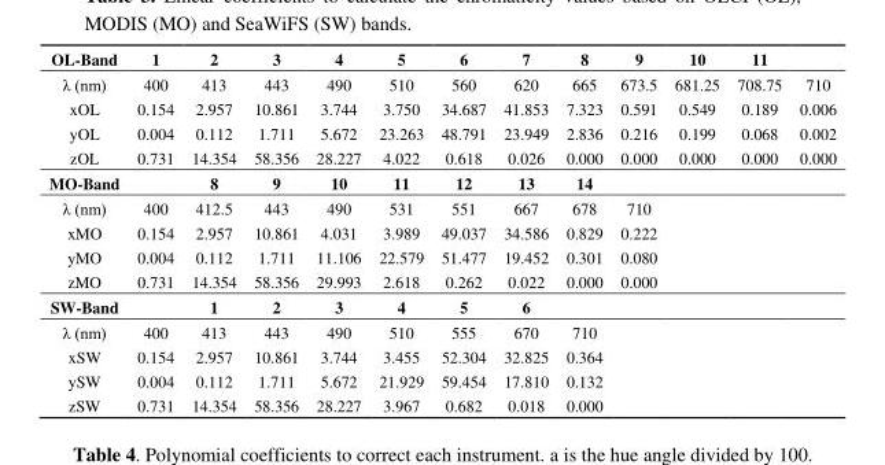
<table><tbody><tr><td>OL-Band</td><td>1</td><td>2</td><td>3</td><td>4</td><td>5</td><td>6</td><td>7</td><td>8</td><td>9</td><td>10</td><td>11</td><td></td></tr><tr><td>λ (nm)</td><td>400</td><td>413</td><td>443</td><td>490</td><td>510</td><td>560</td><td>620</td><td>665</td><td>673.5</td><td>681.25</td><td>708.75</td><td>710</td></tr><tr><td>xOL</td><td>0.154</td><td>2.957</td><td>10.861</td><td>3.744</td><td>3.750</td><td>34.687</td><td>41.853</td><td>7.323</td><td>0.591</td><td>0.549</td><td>0.189</td><td>0.006</td></tr><tr><td>yOL</td><td>0.004</td><td>0.112</td><td>1.711</td><td>5.672</td><td>23.263</td><td>48.791</td><td>23.949</td><td>2.836</td><td>0.216</td><td>0.199</td><td>0.068</td><td>0.002</td></tr><tr><td>zOL</td><td>0.731</td><td>14.354</td><td>58.356</td><td>28.227</td><td>4.022</td><td>0.618</td><td>0.026</td><td>0.000</td><td>0.000</td><td>0.000</td><td>0.000</td><td>0.000</td></tr><tr><td>MO-Band</td><td></td><td>8</td><td>9</td><td>10</td><td>11</td><td>12</td><td>13</td><td>14</td><td></td><td></td><td></td><td></td></tr><tr><td>λ (nm)</td><td>400</td><td>412.5</td><td>443</td><td>490</td><td>531</td><td>551</td><td>667</td><td>678</td><td>710</td><td></td><td></td><td></td></tr><tr><td>xMO</td><td>0.154</td><td>2.957</td><td>10.861</td><td>4.031</td><td>3.989</td><td>49.037</td><td>34.586</td><td>0.829</td><td>0.222</td><td></td><td></td><td></td></tr><tr><td>yMO</td><td>0.004</td><td>0.112</td><td>1.711</td><td>11.106</td><td>22.579</td><td>51.477</td><td>19.452</td><td>0.301</td><td>0.080</td><td></td><td></td><td></td></tr><tr><td>zMO</td><td>0.731</td><td>14.354</td><td>58.356</td><td>29.993</td><td>2.618</td><td>0.262</td><td>0.022</td><td>0.000</td><td>0.000</td><td></td><td></td><td></td></tr><tr><td>SW-Band</td><td></td><td>1</td><td>2</td><td>3</td><td>4</td><td>5</td><td>6</td><td></td><td></td><td></td><td></td><td></td></tr><tr><td>λ (nm)</td><td>400</td><td>413</td><td>443</td><td>490</td><td>510</td><td>555</td><td>670</td><td>710</td><td></td><td></td><td></td><td></td></tr><tr><td>xSW</td><td>0.154</td><td>2.957</td><td>10.861</td><td>3.744</td><td>3.455</td><td>52.304</td><td>32.825</td><td>0.364</td><td></td><td></td><td></td><td></td></tr><tr><td>ySW</td><td>0.004</td><td>0.112</td><td>1.711</td><td>5.672</td><td>21.929</td><td>59.454</td><td>17.810</td><td>0.132</td><td></td><td></td><td></td><td></td></tr><tr><td>zSW</td><td>0.731</td><td>14.354</td><td>58.356</td><td>28.227</td><td>3.967</td><td>0.682</td><td>0.018</td><td>0.000</td><td></td><td></td><td></td><td></td></tr></tbody></table>